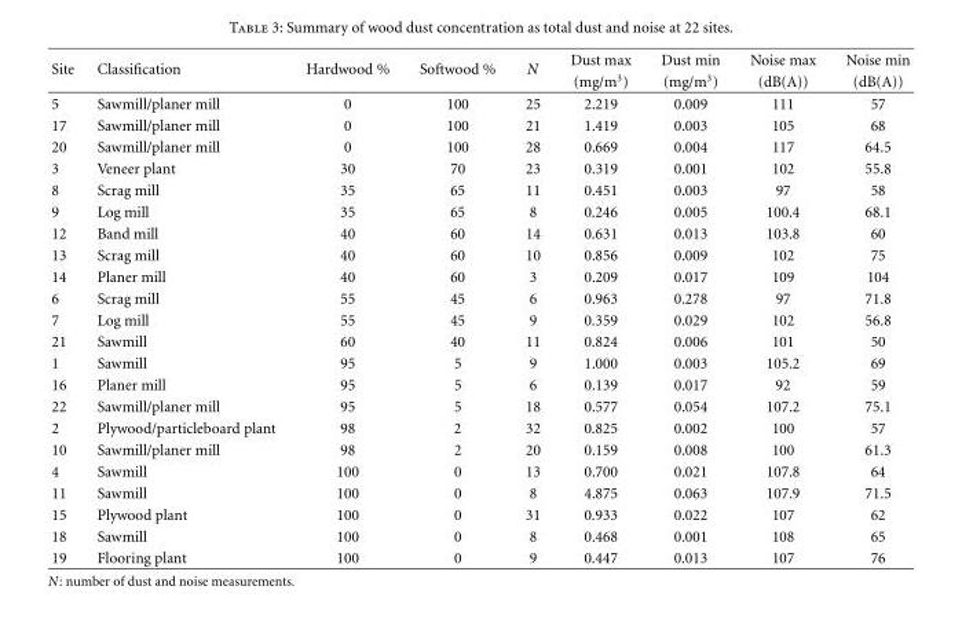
<table><thead><tr><td rowspan="2">Site</td><td rowspan="2">Classification</td><td rowspan="2">Hardwood %</td><td rowspan="2">Softwood %</td><td rowspan="2">N</td><td rowspan="2">Dust max (mg/m<sup>3</sup>)</td><td rowspan="2">Dust min (mg/m<sup>3</sup>)</td><td rowspan="2">Noise max (dB(A))</td><td rowspan="2">Noise min (dB(A))</td></tr><tr></tr></thead><tbody><tr><td>5</td><td>Sawmill/planer mill</td><td>0</td><td>100</td><td>25</td><td>2.219</td><td>0.009</td><td>111</td><td>57</td></tr><tr><td>17</td><td>Sawmill/planer mill</td><td>0</td><td>100</td><td>21</td><td>1.419</td><td>0.003</td><td>105</td><td>68</td></tr><tr><td>20</td><td>Sawmill/planer mill</td><td>0</td><td>100</td><td>28</td><td>0.669</td><td>0.004</td><td>117</td><td>64.5</td></tr><tr><td>3</td><td>Veneer plant</td><td>30</td><td>70</td><td>23</td><td>0.319</td><td>0.001</td><td>102</td><td>55.8</td></tr><tr><td>8</td><td>Scrag mill</td><td>35</td><td>65</td><td>11</td><td>0.451</td><td>0.003</td><td>97</td><td>58</td></tr><tr><td>9</td><td>Log mill</td><td>35</td><td>65</td><td>8</td><td>0.246</td><td>0.005</td><td>100.4</td><td>68.1</td></tr><tr><td>12</td><td>Band mill</td><td>40</td><td>60</td><td>14</td><td>0.631</td><td>0.013</td><td>103.8</td><td>60</td></tr><tr><td>13</td><td>Scrag mill</td><td>40</td><td>60</td><td>10</td><td>0.856</td><td>0.009</td><td>102</td><td>75</td></tr><tr><td>14</td><td>Planer mill</td><td>40</td><td>60</td><td>3</td><td>0.209</td><td>0.017</td><td>109</td><td>104</td></tr><tr><td>6</td><td>Scrag mill</td><td>55</td><td>45</td><td>6</td><td>0.963</td><td>0.278</td><td>97</td><td>71.8</td></tr><tr><td>7</td><td>Log mill</td><td>55</td><td>45</td><td>9</td><td>0.359</td><td>0.029</td><td>102</td><td>56.8</td></tr><tr><td>21</td><td>Sawmill</td><td>60</td><td>40</td><td>11</td><td>0.824</td><td>0.006</td><td>101</td><td>50</td></tr><tr><td>1</td><td>Sawmill</td><td>95</td><td>5</td><td>9</td><td>1.000</td><td>0.003</td><td>105.2</td><td>69</td></tr><tr><td>16</td><td>Planer mill</td><td>95</td><td>5</td><td>6</td><td>0.139</td><td>0.017</td><td>92</td><td>59</td></tr><tr><td>22</td><td>Sawmill/planer mill</td><td>95</td><td>5</td><td>18</td><td>0.577</td><td>0.054</td><td>107.2</td><td>75.1</td></tr><tr><td>2</td><td>Plywood/particleboard plant</td><td>98</td><td>2</td><td>32</td><td>0.825</td><td>0.002</td><td>100</td><td>57</td></tr><tr><td>10</td><td>Sawmill/planer mill</td><td>98</td><td>2</td><td>20</td><td>0.159</td><td>0.008</td><td>100</td><td>61.3</td></tr><tr><td>4</td><td>Sawmill</td><td>100</td><td>0</td><td>13</td><td>0.700</td><td>0.021</td><td>107.8</td><td>64</td></tr><tr><td>11</td><td>Sawmill</td><td>100</td><td>0</td><td>8</td><td>4.875</td><td>0.063</td><td>107.9</td><td>71.5</td></tr><tr><td>15</td><td>Plywood plant</td><td>100</td><td>0</td><td>31</td><td>0.933</td><td>0.022</td><td>107</td><td>62</td></tr><tr><td>18</td><td>Sawmill</td><td>100</td><td>0</td><td>8</td><td>0.468</td><td>0.001</td><td>108</td><td>65</td></tr><tr><td>19</td><td>Flooring plant</td><td>100</td><td>0</td><td>9</td><td>0.447</td><td>0.013</td><td>107</td><td>76</td></tr></tbody></table>